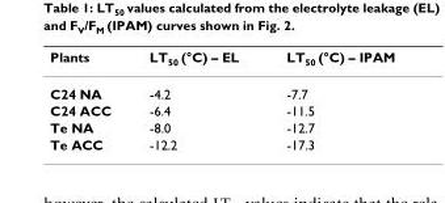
<table><thead><tr><td>Plants</td><td>LT<sub>50</sub> (°C) – EL</td><td>LT<sub>50</sub> (°C) – IPAM</td></tr></thead><tbody><tr><td>C24 NA</td><td>-4.2</td><td>-7.7</td></tr><tr><td>C24 ACC</td><td>-6.4</td><td>-11.5</td></tr><tr><td>Te NA</td><td>-8.0</td><td>-12.7</td></tr><tr><td>Te ACC</td><td>-12.2</td><td>-17.3</td></tr></tbody></table>